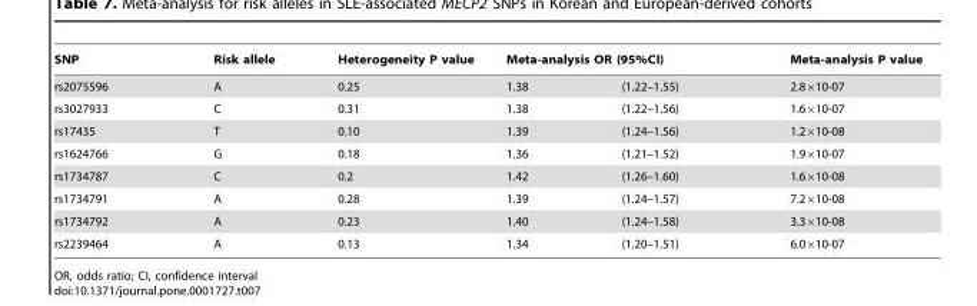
<table><thead><tr><td rowspan="2">SNP rs2075596</td><td rowspan="2">Risk allele A</td><td rowspan="2">Heterogeneity P value 0.25</td><td colspan="2">Meta-analysis OR (95%CI)</td><td rowspan="2">Meta-analysis P value 2.8×10-07</td></tr><tr><td>1.38</td><td>(1.22–1.55)</td></tr></thead><tbody><tr><td>rs3027933</td><td>C</td><td>0.31</td><td>1.38</td><td>(1.22–1.56)</td><td>1.6×10-07</td></tr><tr><td>rs17435</td><td>T</td><td>0.10</td><td>1.39</td><td>(1.24–1.56)</td><td>1.2×10-08</td></tr><tr><td>rs1624766</td><td>G</td><td>0.18</td><td>1.36</td><td>(1.21–1.52)</td><td>1.9×10-07</td></tr><tr><td>rs1734787</td><td>C</td><td>0.2</td><td>1.42</td><td>(1.26–1.60)</td><td>1.6×10-08</td></tr><tr><td>rs1734791</td><td>A</td><td>0.28</td><td>1.39</td><td>(1.24–1.57)</td><td>7.2×10-08</td></tr><tr><td>rs1734792</td><td>A</td><td>0.23</td><td>1.40</td><td>(1.24–1.58)</td><td>3.3×10-08</td></tr><tr><td>rs2239464</td><td>A</td><td>0.13</td><td>1.34</td><td>(1.20–1.51)</td><td>6.0×10-07</td></tr></tbody></table>